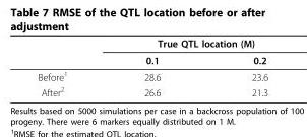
<table><thead><tr><td rowspan="2"></td><td colspan="2">True QTL location (M)</td></tr><tr><td>0.1</td><td>0.2</td></tr></thead><tbody><tr><td>Before<sup>1</sup></td><td>28.6</td><td>23.6</td></tr><tr><td>After<sup>2</sup></td><td>26.6</td><td>21.3</td></tr></tbody></table>